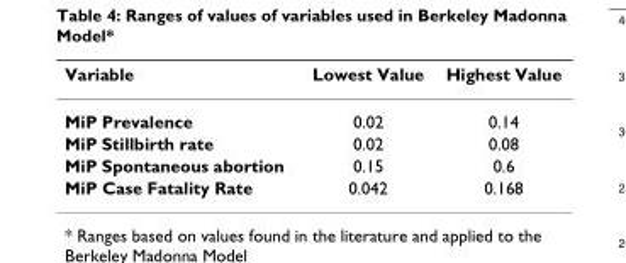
<table><thead><tr><td>Variable</td><td>Lowest Value</td><td>Highest Value</td></tr></thead><tbody><tr><td>MiP Prevalence</td><td>0.02</td><td>0.14</td></tr><tr><td>MiP Stillbirth rate</td><td>0.02</td><td>0.08</td></tr><tr><td>MiP Spontaneous abortion</td><td>0.15</td><td>0.6</td></tr><tr><td>MiP Case Fatality Rate</td><td>0.042</td><td>0.168</td></tr></tbody></table>